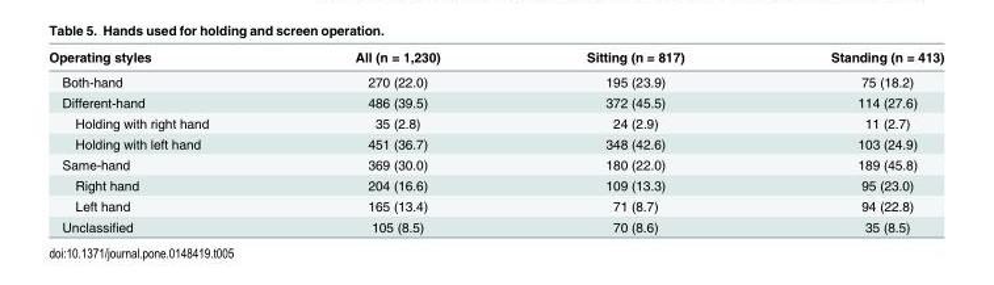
<table><thead><tr><td>Operating styles</td><td>All (n = 1,230)</td><td>Sitting (n = 817)</td><td>Standing (n = 413)</td></tr></thead><tbody><tr><td>Both-hand</td><td>270 (22.0)</td><td>195 (23.9)</td><td>75 (18.2)</td></tr><tr><td>Different-hand</td><td>486 (39.5)</td><td>372 (45.5)</td><td>114 (27.6)</td></tr><tr><td>Holding with right hand</td><td>35 (2.8)</td><td>24 (2.9)</td><td>11 (2.7)</td></tr><tr><td>Holding with left hand</td><td>451 (36.7)</td><td>348 (42.6)</td><td>103 (24.9)</td></tr><tr><td>Same-hand</td><td>369 (30.0)</td><td>180 (22.0)</td><td>189 (45.8)</td></tr><tr><td>Right hand</td><td>204 (16.6)</td><td>109 (13.3)</td><td>95 (23.0)</td></tr><tr><td>Left hand</td><td>165 (13.4)</td><td>71 (8.7)</td><td>94 (22.8)</td></tr><tr><td>Unclassified</td><td>105 (8.5)</td><td>70 (8.6)</td><td>35 (8.5)</td></tr></tbody></table>